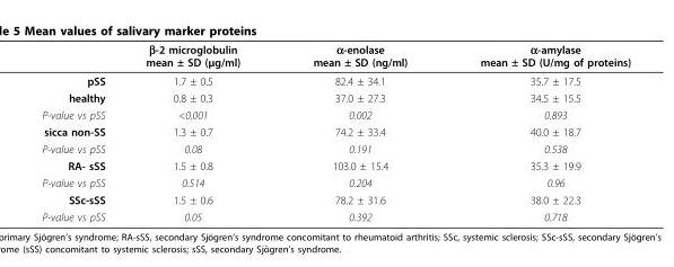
<table><thead><tr><td></td><td>β-2 microglobulin mean ± SD (μg/ml)</td><td>α-enolase mean ± SD (ng/ml)</td><td>α-amylase mean ± SD (U/mg of proteins)</td></tr></thead><tbody><tr><td>pSS</td><td>1.7 ± 0.5</td><td>82.4 ± 34.1</td><td>35.7 ± 17.5</td></tr><tr><td>healthy</td><td>0.8 ± 0.3</td><td>37.0 ± 27.3</td><td>34.5 ± 15.5</td></tr><tr><td>P-value vs pSS</td><td>&lt;0.001</td><td>0.002</td><td>0.893</td></tr><tr><td>sicca non-SS</td><td>1.3 ± 0.7</td><td>74.2 ± 33.4</td><td>40.0 ± 18.7</td></tr><tr><td>P-value vs pSS</td><td>0.08</td><td>0.191</td><td>0.538</td></tr><tr><td>RA- sSS</td><td>1.5 ± 0.8</td><td>103.0 ± 15.4</td><td>35.3 ± 19.9</td></tr><tr><td>P-value vs pSS</td><td>0.514</td><td>0.204</td><td>0.96</td></tr><tr><td>SSc-sSS</td><td>1.5 ± 0.6</td><td>78.2 ± 31.6</td><td>38.0 ± 22.3</td></tr><tr><td>P-value vs pSS</td><td>0.05</td><td>0.392</td><td>0.718</td></tr></tbody></table>